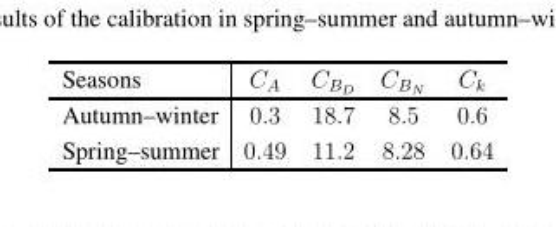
<table><thead><tr><td>Seasons</td><td>C<sub>A</sub></td><td>CBD</td><td>CBN</td><td>C<sub>k</sub></td></tr></thead><tbody><tr><td>Autumn–winter</td><td>0.3</td><td>18.7</td><td>8.5</td><td>0.6</td></tr><tr><td>Spring–summer</td><td>0.49</td><td>11.2</td><td>8.28</td><td>0.64</td></tr></tbody></table>